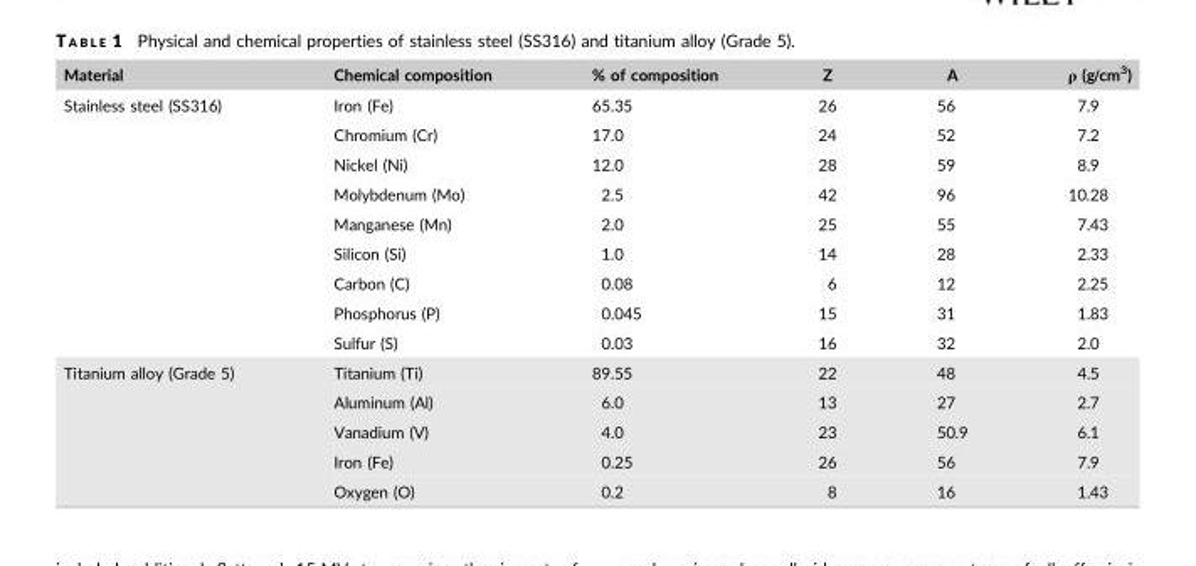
<table><thead><tr><td>Material</td><td>Chemical composition</td><td>% of composition</td><td>Z</td><td>A</td><td>ρ (g/cm<sup>3</sup>)</td></tr></thead><tbody><tr><td rowspan="9">Stainless steel (SS316)</td><td>Iron (Fe)</td><td>65.35</td><td>26</td><td>56</td><td>7.9</td></tr><tr><td>Chromium (Cr)</td><td>17.0</td><td>24</td><td>52</td><td>7.2</td></tr><tr><td>Nickel (Ni)</td><td>12.0</td><td>28</td><td>59</td><td>8.9</td></tr><tr><td>Molybdenum (Mo)</td><td>2.5</td><td>42</td><td>96</td><td>10.28</td></tr><tr><td>Manganese (Mn)</td><td>2.0</td><td>25</td><td>55</td><td>7.43</td></tr><tr><td>Silicon (Si)</td><td>1.0</td><td>14</td><td>28</td><td>2.33</td></tr><tr><td>Carbon (C)</td><td>0.08</td><td>6</td><td>12</td><td>2.25</td></tr><tr><td>Phosphorus (P)</td><td>0.045</td><td>15</td><td>31</td><td>1.83</td></tr><tr><td>Sulfur (S)</td><td>0.03</td><td>16</td><td>32</td><td>2.0</td></tr><tr><td rowspan="5">Titanium alloy (Grade 5)</td><td>Titanium (Ti)</td><td>89.55</td><td>22</td><td>48</td><td>4.5</td></tr><tr><td>Aluminum (Al)</td><td>6.0</td><td>13</td><td>27</td><td>2.7</td></tr><tr><td>Vanadium (V)</td><td>4.0</td><td>23</td><td>50.9</td><td>6.1</td></tr><tr><td>Iron (Fe)</td><td>0.25</td><td>26</td><td>56</td><td>7.9</td></tr><tr><td>Oxygen (O)</td><td>0.2</td><td>8</td><td>16</td><td>1.43</td></tr></tbody></table>